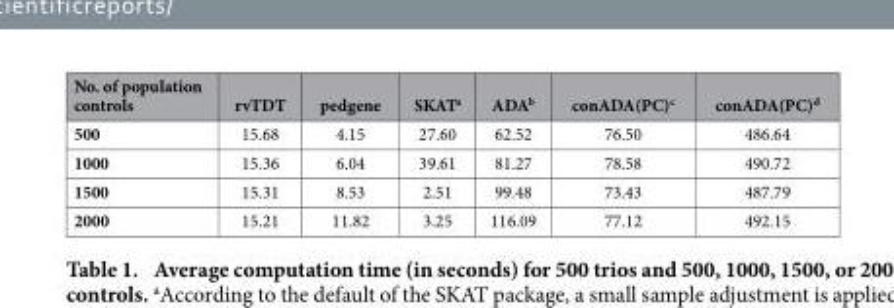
<table><thead><tr><td>No. of population controls</td><td>rvTDT</td><td>pedgene</td><td>SKAT<sup>a</sup></td><td>ADA<sup>b</sup></td><td>conADA(PC)<sup>c</sup></td><td>conADA(PC)<sup>d</sup></td></tr></thead><tbody><tr><td>500</td><td>15.68</td><td>4.15</td><td>27.60</td><td>62.52</td><td>76.50</td><td>486.64</td></tr><tr><td>1000</td><td>15.36</td><td>6.04</td><td>39.61</td><td>81.27</td><td>78.58</td><td>490.72</td></tr><tr><td>1500</td><td>15.31</td><td>8.53</td><td>2.51</td><td>99.48</td><td>73.43</td><td>487.79</td></tr><tr><td>2000</td><td>15.21</td><td>11.82</td><td>3.25</td><td>116.09</td><td>77.12</td><td>492.15</td></tr></tbody></table>